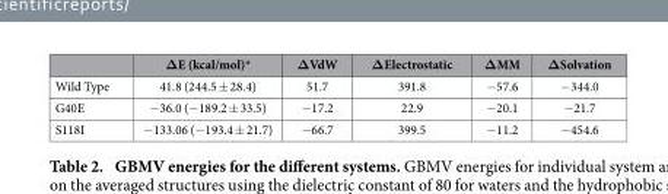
<table><thead><tr><td></td><td>ΔE (kcal/mol)*</td><td>ΔVdW</td><td>ΔElectrostatic</td><td>ΔMM</td><td>ΔSolvation</td></tr></thead><tbody><tr><td>Wild Type</td><td>41.8 (244.5 ± 28.4)</td><td>51.7</td><td>391.8</td><td>− 57.6</td><td>− 344.0</td></tr><tr><td>G40E</td><td>− 36.0 (− 189.2 ± 33.5)</td><td>− 17.2</td><td>22.9</td><td>− 20.1</td><td>− 21.7</td></tr><tr><td>S118I</td><td>− 133.06 (− 193.4 ± 21.7)</td><td>− 66.7</td><td>399.5</td><td>− 11.2</td><td>− 454.6</td></tr></tbody></table>